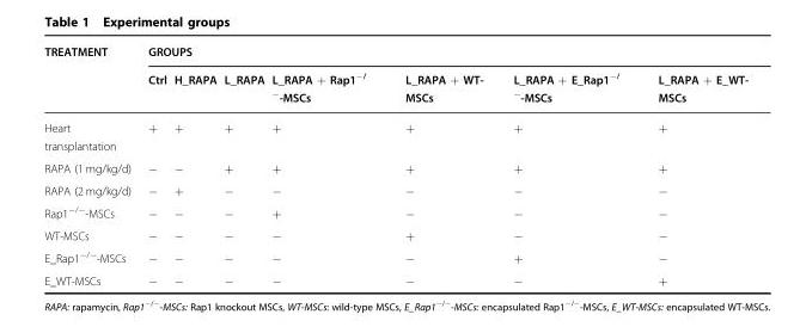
<table><thead><tr><td rowspan="2">TREATMENT</td><td colspan="7">GROUPS</td></tr><tr><td>Ctrl</td><td>H_RAPA</td><td>L_RAPA</td><td>L_RAPA + Rap1<sup>−/ −</sup>-MSCs</td><td>L_RAPA + WT- MSCs</td><td>L_RAPA + E_Rap1<sup>−/ −</sup>-MSCs</td><td>L_RAPA + E_WT- MSCs</td></tr></thead><tbody><tr><td>Heart transplantation</td><td>+</td><td>+</td><td>+</td><td>+</td><td>+</td><td>+</td><td>+</td></tr><tr><td>RAPA (1 mg/kg/d)</td><td>−</td><td>−</td><td>+</td><td>+</td><td>+</td><td>+</td><td>+</td></tr><tr><td>RAPA (2 mg/kg/d)</td><td>−</td><td>+</td><td>−</td><td>−</td><td>−</td><td>−</td><td>−</td></tr><tr><td>Rap1<sup>−/−</sup>-MSCs</td><td>−</td><td>−</td><td>−</td><td>+</td><td>−</td><td>−</td><td>−</td></tr><tr><td>WT-MSCs</td><td>−</td><td>−</td><td>−</td><td>−</td><td>+</td><td>−</td><td>−</td></tr><tr><td>E_Rap1<sup>−/−</sup>-MSCs</td><td>−</td><td>−</td><td>−</td><td>−</td><td>−</td><td>+</td><td>−</td></tr><tr><td>E_WT-MSCs</td><td>−</td><td>−</td><td>−</td><td>−</td><td>−</td><td>−</td><td>+</td></tr></tbody></table>